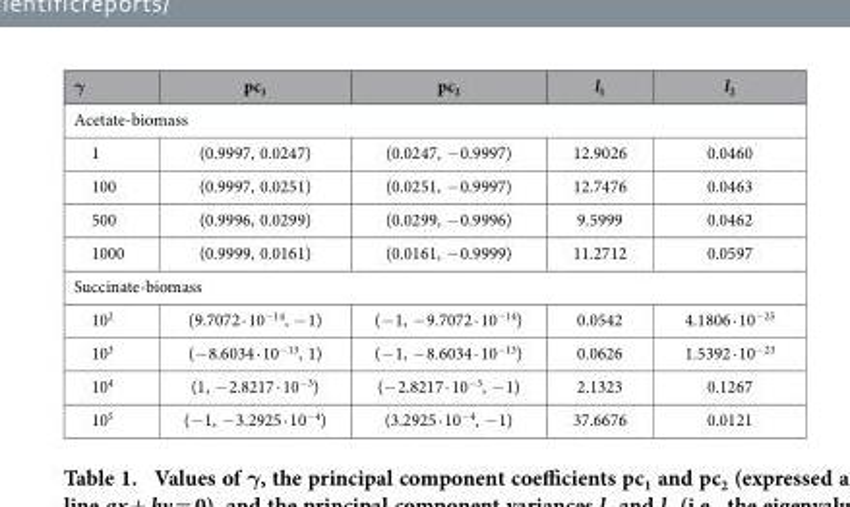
<table><thead><tr><td>γ</td><td>pc<sub>1</sub></td><td>pc<sub>2</sub></td><td>l<sub>1</sub></td><td>l<sub>2</sub></td></tr></thead><tbody><tr><td colspan="5">Acetate-biomass</td></tr><tr><td>1</td><td>(0.9997, 0.0247)</td><td>(0.0247, − 0.9997)</td><td>12.9026</td><td>0.0460</td></tr><tr><td>100</td><td>(0.9997, 0.0251)</td><td>(0.0251, − 0.9997)</td><td>12.7476</td><td>0.0463</td></tr><tr><td>500</td><td>(0.9996, 0.0299)</td><td>(0.0299, − 0.9996)</td><td>9.5999</td><td>0.0462</td></tr><tr><td>1000</td><td>(0.9999, 0.0161)</td><td>(0.0161, − 0.9999)</td><td>11.2712</td><td>0.0597</td></tr><tr><td colspan="5">Succinate-biomass</td></tr><tr><td>10<sup>2</sup></td><td>(9.7072 · 10<sup>−14</sup>, − 1)</td><td>(− 1, − 9.7072 · 10<sup>−14</sup>)</td><td>0.0542</td><td>4.1806 · 10<sup>−25</sup></td></tr><tr><td>10<sup>3</sup></td><td>(− 8.6034 · 10<sup>−13</sup>, 1)</td><td>(− 1, − 8.6034 · 10<sup>−13</sup>)</td><td>0.0626</td><td>1.5392 · 10<sup>−23</sup></td></tr><tr><td>10<sup>4</sup></td><td>(1, − 2.8217 · 10<sup>−3</sup>)</td><td>(− 2.8217 · 10<sup>−3</sup>, − 1)</td><td>2.1323</td><td>0.1267</td></tr><tr><td>10<sup>5</sup></td><td>(− 1, − 3.2925 · 10<sup>−4</sup>)</td><td>(3.2925 · 10<sup>−4</sup>, − 1)</td><td>37.6676</td><td>0.0121</td></tr></tbody></table>